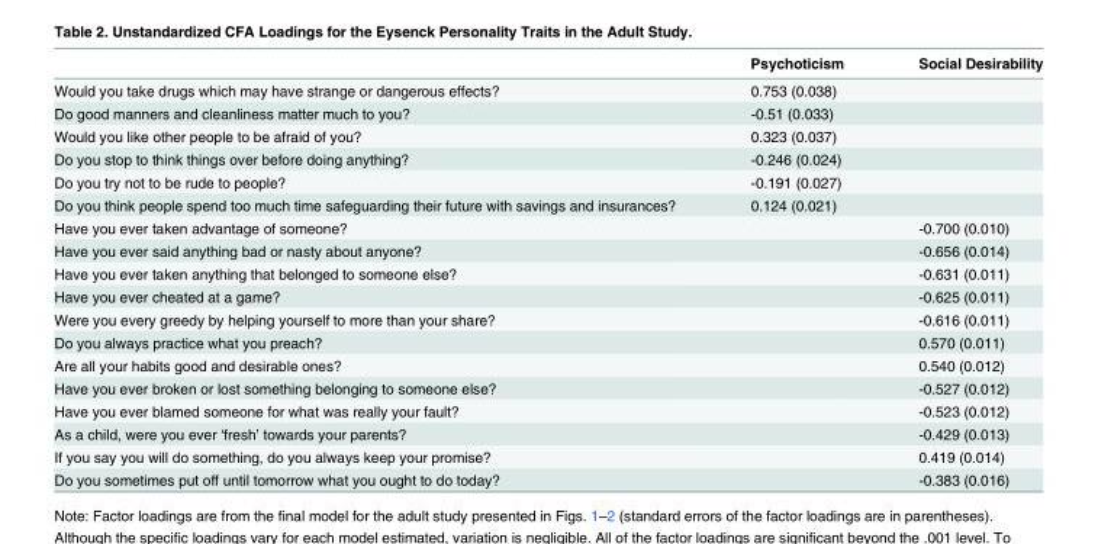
<table><thead><tr><td></td><td>Psychoticism</td><td>Social Desirability</td></tr></thead><tbody><tr><td>Would you take drugs which may have strange or dangerous effects?</td><td>0.753 (0.038)</td><td></td></tr><tr><td>Do good manners and cleanliness matter much to you?</td><td>-0.51 (0.033)</td><td></td></tr><tr><td>Would you like other people to be afraid of you?</td><td>0.323 (0.037)</td><td></td></tr><tr><td>Do you stop to think things over before doing anything?</td><td>-0.246 (0.024)</td><td></td></tr><tr><td>Do you try not to be rude to people?</td><td>-0.191 (0.027)</td><td></td></tr><tr><td>Do you think people spend too much time safeguarding their future with savings and insurances?</td><td>0.124 (0.021)</td><td></td></tr><tr><td>Have you ever taken advantage of someone?</td><td></td><td>-0.700 (0.010)</td></tr><tr><td>Have you ever said anything bad or nasty about anyone?</td><td></td><td>-0.656 (0.014)</td></tr><tr><td>Have you ever taken anything that belonged to someone else?</td><td></td><td>-0.631 (0.011)</td></tr><tr><td>Have you ever cheated at a game?</td><td></td><td>-0.625 (0.011)</td></tr><tr><td>Were you every greedy by helping yourself to more than your share?</td><td></td><td>-0.616 (0.011)</td></tr><tr><td>Do you always practice what you preach?</td><td></td><td>0.570 (0.011)</td></tr><tr><td>Are all your habits good and desirable ones?</td><td></td><td>0.540 (0.012)</td></tr><tr><td>Have you ever broken or lost something belonging to someone else?</td><td></td><td>-0.527 (0.012)</td></tr><tr><td>Have you ever blamed someone for what was really your fault?</td><td></td><td>-0.523 (0.012)</td></tr><tr><td>As a child, were you ever ‘fresh’ towards your parents?</td><td></td><td>-0.429 (0.013)</td></tr><tr><td>If you say you will do something, do you always keep your promise?</td><td></td><td>0.419 (0.014)</td></tr><tr><td>Do you sometimes put off until tomorrow what you ought to do today?</td><td></td><td>-0.383 (0.016)</td></tr></tbody></table>